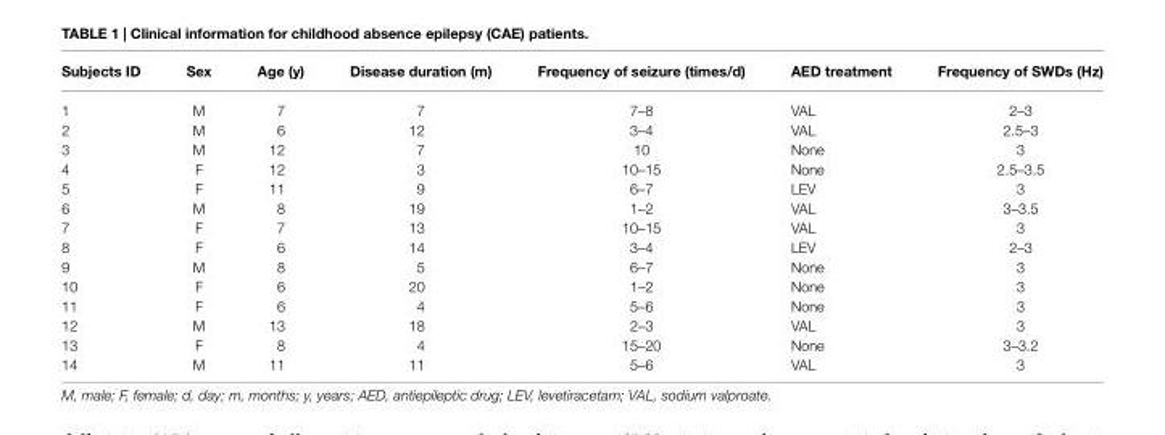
<table><thead><tr><td>Subjects ID</td><td>Sex</td><td>Age (y)</td><td>Disease duration (m)</td><td>Frequency of seizure (times/d)</td><td>AED treatment</td><td>Frequency of SWDs (Hz)</td></tr></thead><tbody><tr><td>1</td><td>M</td><td>7</td><td>7</td><td>7–8</td><td>VAL</td><td>2–3</td></tr><tr><td>2</td><td>M</td><td>6</td><td>12</td><td>3–4</td><td>VAL</td><td>2.5–3</td></tr><tr><td>3</td><td>M</td><td>12</td><td>7</td><td>10</td><td>None</td><td>3</td></tr><tr><td>4</td><td>F</td><td>12</td><td>3</td><td>10–15</td><td>None</td><td>2.5–3.5</td></tr><tr><td>5</td><td>F</td><td>11</td><td>9</td><td>6–7</td><td>LEV</td><td>3</td></tr><tr><td>6</td><td>M</td><td>8</td><td>19</td><td>1–2</td><td>VAL</td><td>3–3.5</td></tr><tr><td>7</td><td>F</td><td>7</td><td>13</td><td>10–15</td><td>VAL</td><td>3</td></tr><tr><td>8</td><td>F</td><td>6</td><td>14</td><td>3–4</td><td>LEV</td><td>2–3</td></tr><tr><td>9</td><td>M</td><td>8</td><td>5</td><td>6–7</td><td>None</td><td>3</td></tr><tr><td>10</td><td>F</td><td>6</td><td>20</td><td>1–2</td><td>None</td><td>3</td></tr><tr><td>11</td><td>F</td><td>6</td><td>4</td><td>5–6</td><td>None</td><td>3</td></tr><tr><td>12</td><td>M</td><td>13</td><td>18</td><td>2–3</td><td>VAL</td><td>3</td></tr><tr><td>13</td><td>F</td><td>8</td><td>4</td><td>15–20</td><td>None</td><td>3–3.2</td></tr><tr><td>14</td><td>M</td><td>11</td><td>11</td><td>5–6</td><td>VAL</td><td>3</td></tr></tbody></table>